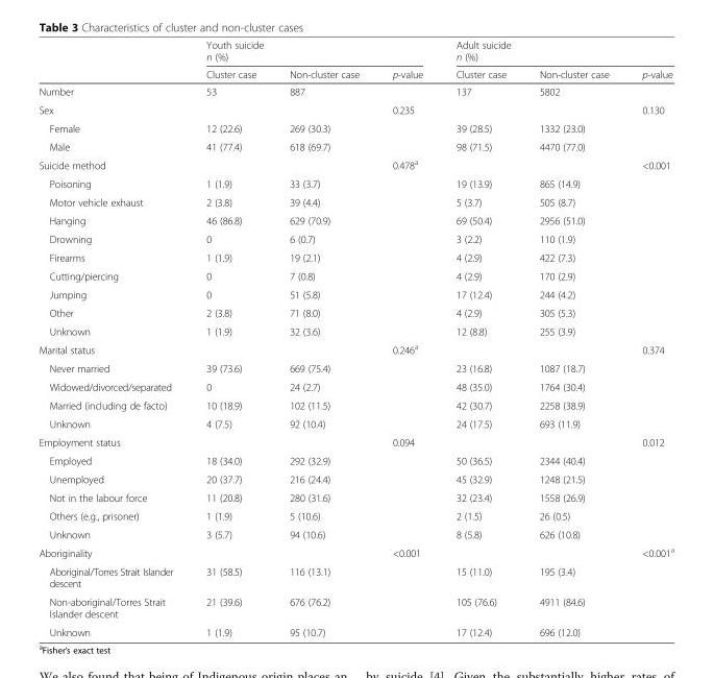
<table><thead><tr><td rowspan="2"></td><td colspan="3">Youth suicide n (%)</td><td colspan="3">Adult suicide n (%)</td></tr><tr><td>Cluster case</td><td>Non-cluster case</td><td>p-value</td><td>Cluster case</td><td>Non-cluster case</td><td>p-value</td></tr></thead><tbody><tr><td>Number</td><td>53</td><td>887</td><td></td><td>137</td><td>5802</td><td></td></tr><tr><td>Sex</td><td></td><td></td><td>0.235</td><td></td><td></td><td>0.130</td></tr><tr><td>Female</td><td>12 (22.6)</td><td>269 (30.3)</td><td></td><td>39 (28.5)</td><td>1332 (23.0)</td><td></td></tr><tr><td>Male</td><td>41 (77.4)</td><td>618 (69.7)</td><td></td><td>98 (71.5)</td><td>4470 (77.0)</td><td></td></tr><tr><td>Suicide method</td><td></td><td></td><td>0.478<sup>a</sup></td><td></td><td></td><td>&lt;0.001</td></tr><tr><td>Poisoning</td><td>1 (1.9)</td><td>33 (3.7)</td><td></td><td>19 (13.9)</td><td>865 (14.9)</td><td></td></tr><tr><td>Motor vehicle exhaust</td><td>2 (3.8)</td><td>39 (4.4)</td><td></td><td>5 (3.7)</td><td>505 (8.7)</td><td></td></tr><tr><td>Hanging</td><td>46 (86.8)</td><td>629 (70.9)</td><td></td><td>69 (50.4)</td><td>2956 (51.0)</td><td></td></tr><tr><td>Drowning</td><td>0</td><td>6 (0.7)</td><td></td><td>3 (2.2)</td><td>110 (1.9)</td><td></td></tr><tr><td>Firearms</td><td>1 (1.9)</td><td>19 (2.1)</td><td></td><td>4 (2.9)</td><td>422 (7.3)</td><td></td></tr><tr><td>Cutting/piercing</td><td>0</td><td>7 (0.8)</td><td></td><td>4 (2.9)</td><td>170 (2.9)</td><td></td></tr><tr><td>Jumping</td><td>0</td><td>51 (5.8)</td><td></td><td>17 (12.4)</td><td>244 (4.2)</td><td></td></tr><tr><td>Other</td><td>2 (3.8)</td><td>71 (8.0)</td><td></td><td>4 (2.9)</td><td>305 (5.3)</td><td></td></tr><tr><td>Unknown</td><td>1 (1.9)</td><td>32 (3.6)</td><td></td><td>12 (8.8)</td><td>255 (3.9)</td><td></td></tr><tr><td>Marital status</td><td></td><td></td><td>0.246<sup>a</sup></td><td></td><td></td><td>0.374</td></tr><tr><td>Never married</td><td>39 (73.6)</td><td>669 (75.4)</td><td></td><td>23 (16.8)</td><td>1087 (18.7)</td><td></td></tr><tr><td>Widowed/divorced/separated</td><td>0</td><td>24 (2.7)</td><td></td><td>48 (35.0)</td><td>1764 (30.4)</td><td></td></tr><tr><td>Married (including de facto)</td><td>10 (18.9)</td><td>102 (11.5)</td><td></td><td>42 (30.7)</td><td>2258 (38.9)</td><td></td></tr><tr><td>Unknown</td><td>4 (7.5)</td><td>92 (10.4)</td><td></td><td>24 (17.5)</td><td>693 (11.9)</td><td></td></tr><tr><td>Employment status</td><td></td><td></td><td>0.094</td><td></td><td></td><td>0.012</td></tr><tr><td>Employed</td><td>18 (34.0)</td><td>292 (32.9)</td><td></td><td>50 (36.5)</td><td>2344 (40.4)</td><td></td></tr><tr><td>Unemployed</td><td>20 (37.7)</td><td>216 (24.4)</td><td></td><td>45 (32.9)</td><td>1248 (21.5)</td><td></td></tr><tr><td>Not in the labour force</td><td>11 (20.8)</td><td>280 (31.6)</td><td></td><td>32 (23.4)</td><td>1558 (26.9)</td><td></td></tr><tr><td>Others (e.g., prisoner)</td><td>1 (1.9)</td><td>5 (10.6)</td><td></td><td>2 (1.5)</td><td>26 (0.5)</td><td></td></tr><tr><td>Unknown</td><td>3 (5.7)</td><td>94 (10.6)</td><td></td><td>8 (5.8)</td><td>626 (10.8)</td><td></td></tr><tr><td>Aboriginality</td><td></td><td></td><td>&lt;0.001</td><td></td><td></td><td>&lt;0.001<sup>a</sup></td></tr><tr><td>Aboriginal/Torres Strait Islander descent</td><td>31 (58.5)</td><td>116 (13.1)</td><td></td><td>15 (11.0)</td><td>195 (3.4)</td><td></td></tr><tr><td>Non-aboriginal/Torres Strait Islander descent</td><td>21 (39.6)</td><td>676 (76.2)</td><td></td><td>105 (76.6)</td><td>4911 (84.6)</td><td></td></tr><tr><td>Unknown</td><td>1 (1.9)</td><td>95 (10.7)</td><td></td><td>17 (12.4)</td><td>696 (12.0)</td><td></td></tr></tbody></table>